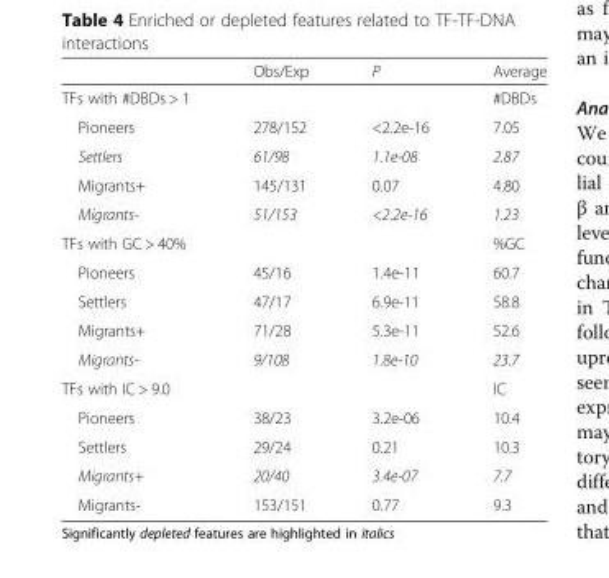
<table><thead><tr><td></td><td>Obs/Exp</td><td>P</td><td>Average</td></tr></thead><tbody><tr><td>TFs with #DBDs &gt; 1</td><td></td><td></td><td>#DBDs</td></tr><tr><td>Pioneers</td><td>278/152</td><td>&lt;2.2e-16</td><td>7.05</td></tr><tr><td>Settlers</td><td>61/98</td><td>1.1e-08</td><td>2.87</td></tr><tr><td>Migrants+</td><td>145/131</td><td>0.07</td><td>4.80</td></tr><tr><td>Migrants-</td><td>51/153</td><td>&lt;2.2e-16</td><td>1.23</td></tr><tr><td>TFs with GC &gt; 40%</td><td></td><td></td><td>%GC</td></tr><tr><td>Pioneers</td><td>45/16</td><td>1.4e-11</td><td>60.7</td></tr><tr><td>Settlers</td><td>47/17</td><td>6.9e-11</td><td>58.8</td></tr><tr><td>Migrants+</td><td>71/28</td><td>5.3e-11</td><td>52.6</td></tr><tr><td>Migrants-</td><td>9/108</td><td>1.8e-10</td><td>23.7</td></tr><tr><td>TFs with IC &gt; 9.0</td><td></td><td></td><td>IC</td></tr><tr><td>Pioneers</td><td>38/23</td><td>3.2e-06</td><td>10.4</td></tr><tr><td>Settlers</td><td>29/24</td><td>0.21</td><td>10.3</td></tr><tr><td>Migrants+</td><td>20/40</td><td>3.4e-07</td><td>7.7</td></tr><tr><td>Migrants-</td><td>153/151</td><td>0.77</td><td>9.3</td></tr></tbody></table>